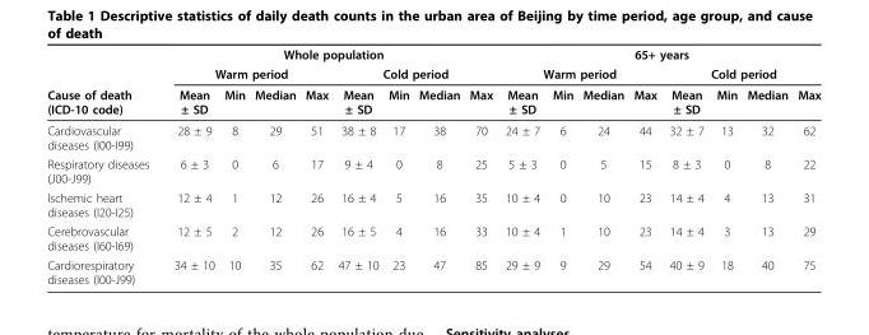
<table><thead><tr><td rowspan="3">Cause of death (ICD-10 code)</td><td colspan="8">Whole population</td><td colspan="8">65+ years</td></tr><tr><td colspan="4">Warm period</td><td colspan="4">Cold period</td><td colspan="4">Warm period</td><td colspan="4">Cold period</td></tr><tr><td>Mean ± SD</td><td>Min</td><td>Median</td><td>Max</td><td>Mean ± SD</td><td>Min</td><td>Median</td><td>Max</td><td>Mean ± SD</td><td>Min</td><td>Median</td><td>Max</td><td>Mean ± SD</td><td>Min</td><td>Median</td><td>Max</td></tr></thead><tbody><tr><td>Cardiovascular diseases (I00-I99)</td><td>28 ± 9</td><td>8</td><td>29</td><td>51</td><td>38 ± 8</td><td>17</td><td>38</td><td>70</td><td>24 ± 7</td><td>6</td><td>24</td><td>44</td><td>32 ± 7</td><td>13</td><td>32</td><td>62</td></tr><tr><td>Respiratory diseases (J00-J99)</td><td>6 ± 3</td><td>0</td><td>6</td><td>17</td><td>9 ± 4</td><td>0</td><td>8</td><td>25</td><td>5 ± 3</td><td>0</td><td>5</td><td>15</td><td>8 ± 3</td><td>0</td><td>8</td><td>22</td></tr><tr><td>Ischemic heart diseases (I20-I25)</td><td>12 ± 4</td><td>1</td><td>12</td><td>26</td><td>16 ± 4</td><td>5</td><td>16</td><td>35</td><td>10 ± 4</td><td>0</td><td>10</td><td>23</td><td>14 ± 4</td><td>4</td><td>13</td><td>31</td></tr><tr><td>Cerebrovascular diseases (I60-I69)</td><td>12 ± 5</td><td>2</td><td>12</td><td>26</td><td>16 ± 5</td><td>4</td><td>16</td><td>33</td><td>10 ± 4</td><td>1</td><td>10</td><td>23</td><td>14 ± 4</td><td>3</td><td>13</td><td>29</td></tr><tr><td>Cardiorespiratory diseases (I00-J99)</td><td>34 ± 10</td><td>10</td><td>35</td><td>62</td><td>47 ± 10</td><td>23</td><td>47</td><td>85</td><td>29 ± 9</td><td>9</td><td>29</td><td>54</td><td>40 ± 9</td><td>18</td><td>40</td><td>75</td></tr></tbody></table>